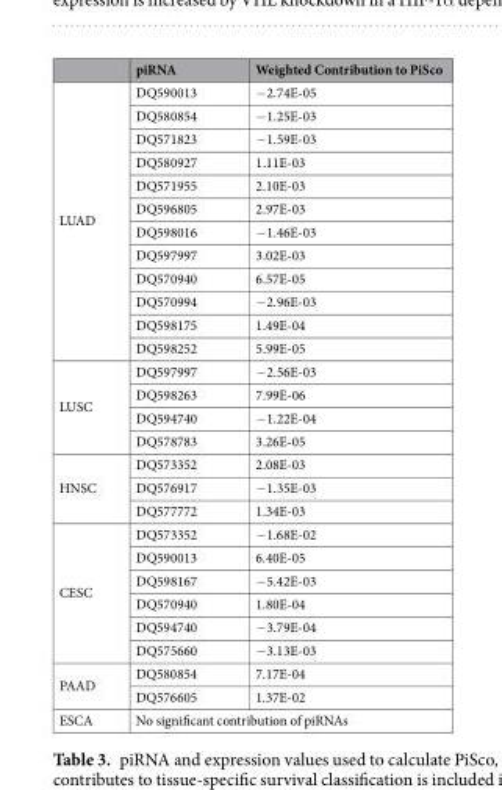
<table><thead><tr><td></td><td>piRNA</td><td>Weighted Contribution to PiSco</td></tr></thead><tbody><tr><td rowspan="12">LUAD</td><td>DQ590013</td><td>−2.74E-05</td></tr><tr><td>DQ580854</td><td>−1.25E-03</td></tr><tr><td>DQ571823</td><td>−1.59E-03</td></tr><tr><td>DQ580927</td><td>1.11E-03</td></tr><tr><td>DQ571955</td><td>2.10E-03</td></tr><tr><td>DQ596805</td><td>2.97E-03</td></tr><tr><td>DQ598016</td><td>−1.46E-03</td></tr><tr><td>DQ597997</td><td>3.02E-03</td></tr><tr><td>DQ570940</td><td>6.57E-05</td></tr><tr><td>DQ570994</td><td>−2.96E-03</td></tr><tr><td>DQ598175</td><td>1.49E-04</td></tr><tr><td>DQ598252</td><td>5.99E-05</td></tr><tr><td rowspan="4">LUSC</td><td>DQ597997</td><td>−2.56E-03</td></tr><tr><td>DQ598263</td><td>7.99E-06</td></tr><tr><td>DQ594740</td><td>−1.22E-04</td></tr><tr><td>DQ578783</td><td>3.26E-05</td></tr><tr><td rowspan="3">HNSC</td><td>DQ573352</td><td>2.08E-03</td></tr><tr><td>DQ576917</td><td>−1.35E-03</td></tr><tr><td>DQ577772</td><td>1.34E-03</td></tr><tr><td rowspan="6">CESC</td><td>DQ573352</td><td>−1.68E-02</td></tr><tr><td>DQ590013</td><td>6.40E-05</td></tr><tr><td>DQ598167</td><td>−5.42E-03</td></tr><tr><td>DQ570940</td><td>1.80E-04</td></tr><tr><td>DQ594740</td><td>−3.79E-04</td></tr><tr><td>DQ575660</td><td>−3.13E-03</td></tr><tr><td rowspan="2">PAAD</td><td>DQ580854</td><td>7.17E-04</td></tr><tr><td>DQ576605</td><td>1.37E-02</td></tr><tr><td>ESCA</td><td colspan="2">No significant contribution of piRNAs</td></tr></tbody></table>